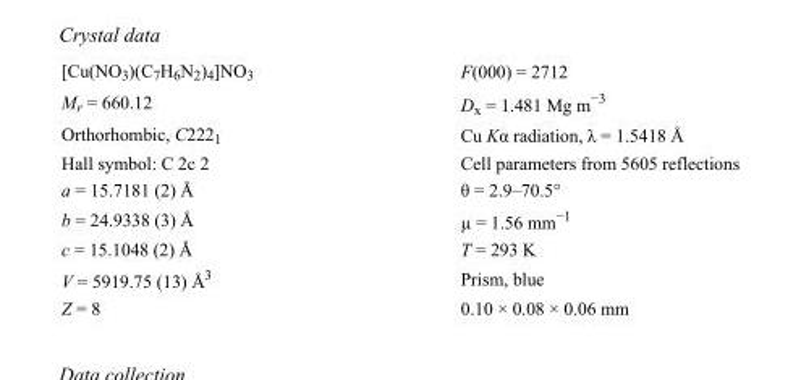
<table><tbody><tr><td>[Cu(NO<sub>3</sub>)(C<sub>7</sub>H<sub>6</sub>N<sub>2</sub>)<sub>4</sub>]NO<sub>3</sub></td><td>F(000) = 2712</td></tr><tr><td>M<sub>r</sub> = 660.12</td><td>D<sub>x</sub> = 1.481 Mg m<sup>−3</sup></td></tr><tr><td>Orthorhombic, C222<sub>1</sub></td><td>Cu Kα radiation, λ = 1.5418 Å</td></tr><tr><td>Hall symbol: C 2c 2</td><td>Cell parameters from 5605 reflections</td></tr><tr><td>a = 15.7181 (2) Å</td><td>θ = 2.9–70.5°</td></tr><tr><td>b = 24.9338 (3) Å</td><td>µ = 1.56 mm<sup>−1</sup></td></tr><tr><td>c = 15.1048 (2) Å</td><td>T = 293 K</td></tr><tr><td>V = 5919.75 (13) Å<sup>3</sup></td><td>Prism, blue</td></tr><tr><td>Z = 8</td><td>0.10 × 0.08 × 0.06 mm</td></tr></tbody></table>